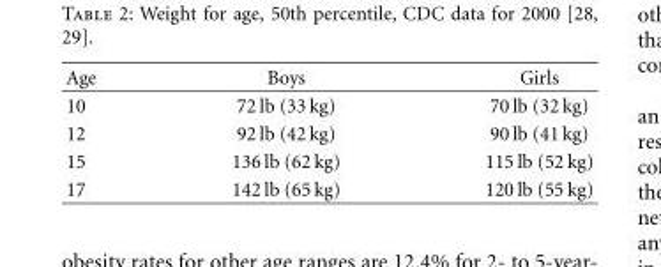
<table><thead><tr><td>Age</td><td>Boys</td><td>Girls</td></tr></thead><tbody><tr><td>10</td><td>72 lb (33 kg)</td><td>70 lb (32 kg)</td></tr><tr><td>12</td><td>92 lb (42 kg)</td><td>90 lb (41 kg)</td></tr><tr><td>15</td><td>136 lb (62 kg)</td><td>115 lb (52 kg)</td></tr><tr><td>17</td><td>142 lb (65 kg)</td><td>120 lb (55 kg)</td></tr></tbody></table>